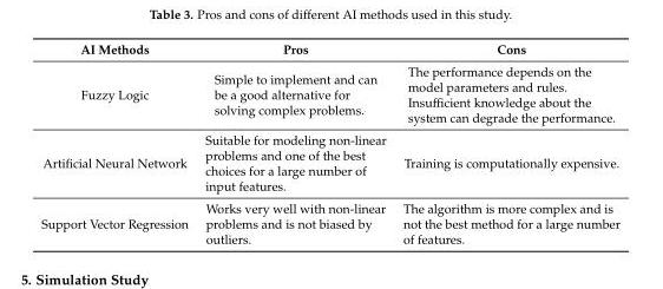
<table><thead><tr><td>AI Methods</td><td>Pros</td><td>Cons</td></tr></thead><tbody><tr><td>Fuzzy Logic</td><td>Simple to implement and can be a good alternative for solving complex problems.</td><td>The performance depends on the model parameters and rules. Insufficient knowledge about the system can degrade the performance.</td></tr><tr><td>Artificial Neural Network</td><td>Suitable for modeling non-linear problems and one of the best choices for a large number of input features.</td><td>Training is computationally expensive.</td></tr><tr><td>Support Vector Regression</td><td>Works very well with non-linear problems and is not biased by outliers.</td><td>The algorithm is more complex and is not the best method for a large number of features.</td></tr></tbody></table>